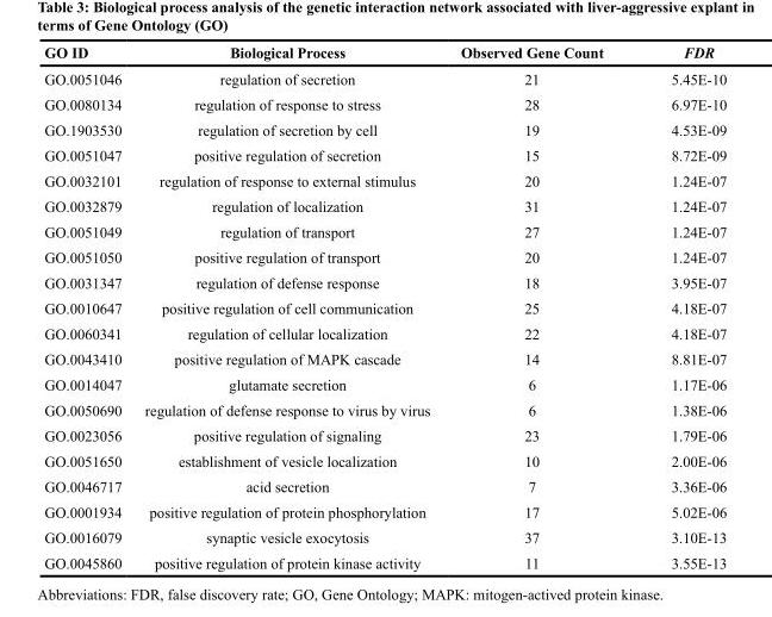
<table><thead><tr><td>GO ID</td><td>Biological Process</td><td>Observed Gene Count</td><td>FDR</td></tr></thead><tbody><tr><td>GO.0051046</td><td>regulation of secretion</td><td>21</td><td>5.45E-10</td></tr><tr><td>GO.0080134</td><td>regulation of response to stress</td><td>28</td><td>6.97E-10</td></tr><tr><td>GO.1903530</td><td>regulation of secretion by cell</td><td>19</td><td>4.53E-09</td></tr><tr><td>GO.0051047</td><td>positive regulation of secretion</td><td>15</td><td>8.72E-09</td></tr><tr><td>GO.0032101</td><td>regulation of response to external stimulus</td><td>20</td><td>1.24E-07</td></tr><tr><td>GO.0032879</td><td>regulation of localization</td><td>31</td><td>1.24E-07</td></tr><tr><td>GO.0051049</td><td>regulation of transport</td><td>27</td><td>1.24E-07</td></tr><tr><td>GO.0051050</td><td>positive regulation of transport</td><td>20</td><td>1.24E-07</td></tr><tr><td>GO.0031347</td><td>regulation of defense response</td><td>18</td><td>3.95E-07</td></tr><tr><td>GO.0010647</td><td>positive regulation of cell communication</td><td>25</td><td>4.18E-07</td></tr><tr><td>GO.0060341</td><td>regulation of cellular localization</td><td>22</td><td>4.18E-07</td></tr><tr><td>GO.0043410</td><td>positive regulation of MAPK cascade</td><td>14</td><td>8.81E-07</td></tr><tr><td>GO.0014047</td><td>glutamate secretion</td><td>6</td><td>1.17E-06</td></tr><tr><td>GO.0050690</td><td>regulation of defense response to virus by virus</td><td>6</td><td>1.38E-06</td></tr><tr><td>GO.0023056</td><td>positive regulation of signaling</td><td>23</td><td>1.79E-06</td></tr><tr><td>GO.0051650</td><td>establishment of vesicle localization</td><td>10</td><td>2.00E-06</td></tr><tr><td>GO.0046717</td><td>acid secretion</td><td>7</td><td>3.36E-06</td></tr><tr><td>GO.0001934</td><td>positive regulation of protein phosphorylation</td><td>17</td><td>5.02E-06</td></tr><tr><td>GO.0016079</td><td>synaptic vesicle exocytosis</td><td>37</td><td>3.10E-13</td></tr><tr><td>GO.0045860</td><td>positive regulation of protein kinase activity</td><td>11</td><td>3.55E-13</td></tr></tbody></table>